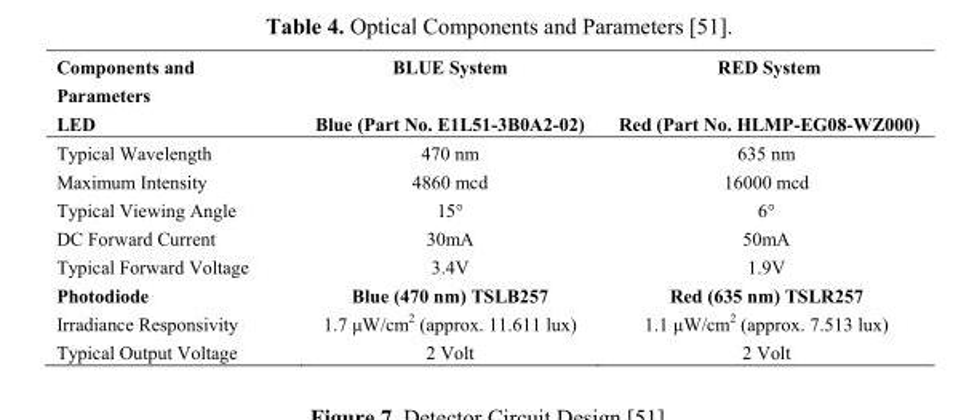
<table><thead><tr><td rowspan="2">Components and Parameters LED</td><td rowspan="2">BLUE System Blue (Part No. E1L51-3B0A2-02)</td><td rowspan="2">RED System Red (Part No. HLMP-EG08-WZ000)</td></tr><tr></tr></thead><tbody><tr><td>Typical Wavelength</td><td>470 nm</td><td>635 nm</td></tr><tr><td>Maximum Intensity</td><td>4860 mcd</td><td>16000 mcd</td></tr><tr><td>Typical Viewing Angle</td><td>15°</td><td>6°</td></tr><tr><td>DC Forward Current</td><td>30mA</td><td>50mA</td></tr><tr><td>Typical Forward Voltage</td><td>3.4V</td><td>1.9V</td></tr><tr><td>Photodiode</td><td>Blue (470 nm) TSLB257</td><td>Red (635 nm) TSLR257</td></tr><tr><td>Irradiance Responsivity</td><td>1.7 μW/cm<sup>2</sup> (approx. 11.611 lux)</td><td>1.1 μW/cm<sup>2</sup> (approx. 7.513 lux)</td></tr><tr><td>Typical Output Voltage</td><td>2 Volt</td><td>2 Volt</td></tr></tbody></table>